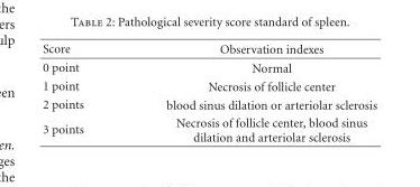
<table><thead><tr><td>Score</td><td>Observation indexes</td></tr></thead><tbody><tr><td>0 point</td><td>Normal</td></tr><tr><td>1 point</td><td>Necrosis of follicle center</td></tr><tr><td>2 points</td><td>blood sinus dilation or arteriolar sclerosis</td></tr><tr><td>3 points</td><td>Necrosis of follicle center, blood sinus dilation and arteriolar sclerosis</td></tr></tbody></table>